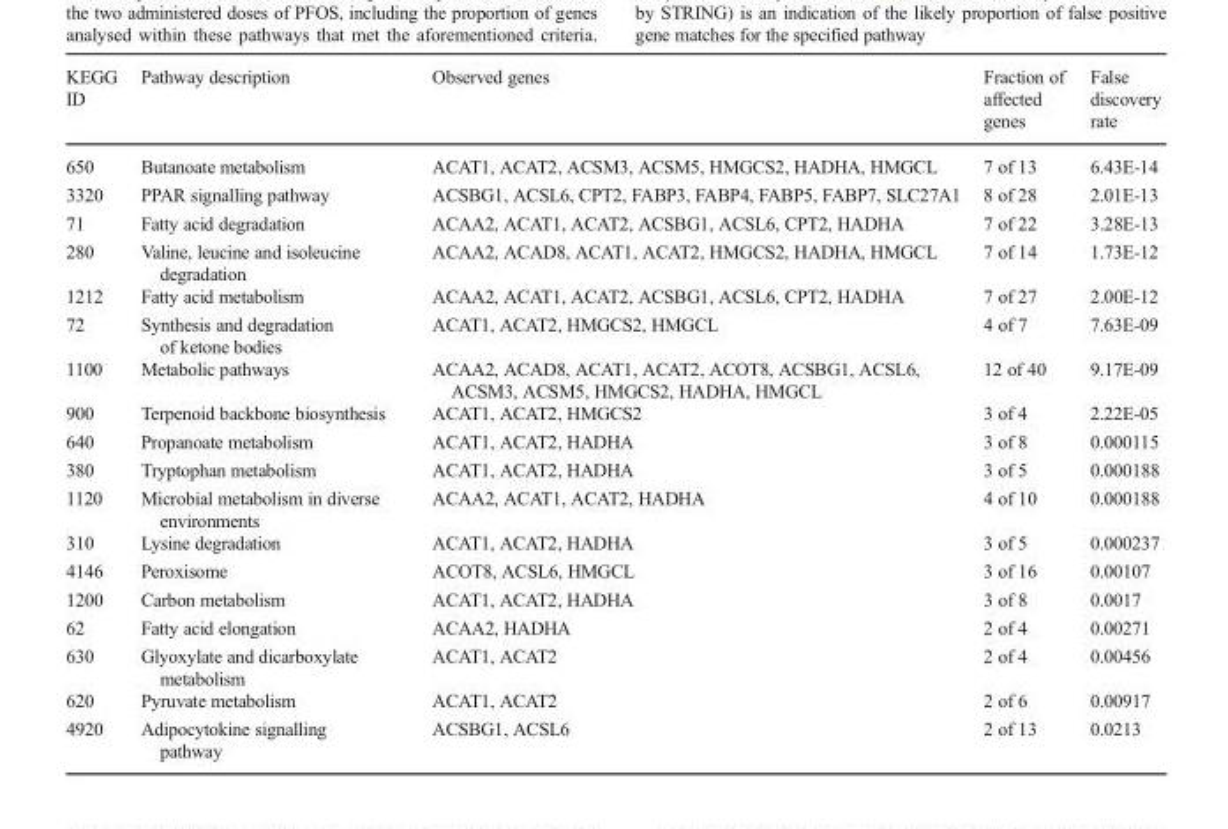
<table><thead><tr><td>KEGG ID</td><td>Pathway description</td><td>Observed genes</td><td>Fraction of affected genes</td><td>False discovery rate</td></tr></thead><tbody><tr><td>650</td><td>Butanoate metabolism</td><td>ACAT1, ACAT2, ACSM3, ACSM5, HMGCS2, HADHA, HMGCL</td><td>7 of 13</td><td>6.43E-14</td></tr><tr><td>3320</td><td>PPAR signalling pathway</td><td>ACSBG1, ACSL6, CPT2, FABP3, FABP4, FABP5, FABP7, SLC27A1</td><td>8 of 28</td><td>2.01E-13</td></tr><tr><td>71</td><td>Fatty acid degradation</td><td>ACAA2, ACAT1, ACAT2, ACSBG1, ACSL6, CPT2, HADHA</td><td>7 of 22</td><td>3.28E-13</td></tr><tr><td>280</td><td>Valine, leucine and isoleucine degradation</td><td>ACAA2, ACAD8, ACAT1, ACAT2, HMGCS2, HADHA, HMGCL</td><td>7 of 14</td><td>1.73E-12</td></tr><tr><td>1212</td><td>Fatty acid metabolism</td><td>ACAA2, ACAT1, ACAT2, ACSBG1, ACSL6, CPT2, HADHA</td><td>7 of 27</td><td>2.00E-12</td></tr><tr><td>72</td><td>Synthesis and degradation of ketone bodies</td><td>ACAT1, ACAT2, HMGCS2, HMGCL</td><td>4 of 7</td><td>7.63E-09</td></tr><tr><td>1100</td><td>Metabolic pathways</td><td>ACAA2, ACAD8, ACAT1, ACAT2, ACOT8, ACSBG1, ACSL6, ACSM3, ACSM5, HMGCS2, HADHA, HMGCL</td><td>12 of 40</td><td>9.17E-09</td></tr><tr><td>900</td><td>Terpenoid backbone biosynthesis</td><td>ACAT1, ACAT2, HMGCS2</td><td>3 of 4</td><td>2.22E-05</td></tr><tr><td>640</td><td>Propanoate metabolism</td><td>ACAT1, ACAT2, HADHA</td><td>3 of 8</td><td>0.000115</td></tr><tr><td>380</td><td>Tryptophan metabolism</td><td>ACAT1, ACAT2, HADHA</td><td>3 of 5</td><td>0.000188</td></tr><tr><td>1120</td><td>Microbial metabolism in diverse environments</td><td>ACAA2, ACAT1, ACAT2, HADHA</td><td>4 of 10</td><td>0.000188</td></tr><tr><td>310</td><td>Lysine degradation</td><td>ACAT1, ACAT2, HADHA</td><td>3 of 5</td><td>0.000237</td></tr><tr><td>4146</td><td>Peroxisome</td><td>ACOT8, ACSL6, HMGCL</td><td>3 of 16</td><td>0.00107</td></tr><tr><td>1200</td><td>Carbon metabolism</td><td>ACAT1, ACAT2, HADHA</td><td>3 of 8</td><td>0.0017</td></tr><tr><td>62</td><td>Fatty acid elongation</td><td>ACAA2, HADHA</td><td>2 of 4</td><td>0.00271</td></tr><tr><td>630</td><td>Glyoxylate and dicarboxylate metabolism</td><td>ACAT1, ACAT2</td><td>2 of 4</td><td>0.00456</td></tr><tr><td>620</td><td>Pyruvate metabolism</td><td>ACAT1, ACAT2</td><td>2 of 6</td><td>0.00917</td></tr><tr><td>4920</td><td>Adipocytokine signalling pathway</td><td>ACSBG1, ACSL6</td><td>2 of 13</td><td>0.0213</td></tr></tbody></table>